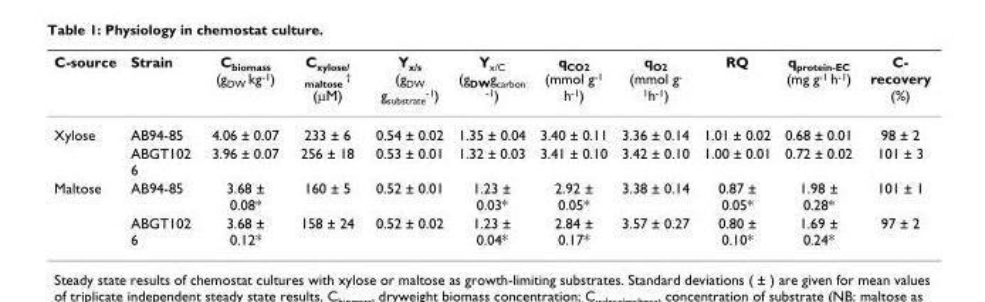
<table><thead><tr><td>C-source</td><td>Strain</td><td>C<sub>biomass</sub> (g<sub>DW</sub> kg<sup>-1</sup>)</td><td>C<sub>xylose/ maltose</sub> <sup>†</sup> (μM)</td><td>Y<sub>x/s</sub> (g<sub>DW</sub> g<sub>substrate</sub><sup>-1</sup>)</td><td>Y<sub>x/C</sub> (g<sub>DW</sub>g<sub>carbon</sub> <sup>-1</sup>)</td><td>q<sub>CO2</sub> (mmol g<sup>-1</sup> h<sup>-1</sup>)</td><td>q<sub>O2</sub> (mmol g<sup>- 1</sup>h<sup>-1</sup>)</td><td>RQ</td><td>q<sub>protein-EC</sub> (mg g<sup>-1</sup> h<sup>-1</sup>)</td><td>C- recovery (%)</td></tr></thead><tbody><tr><td rowspan="2">Xylose</td><td>AB94-85</td><td>4.06 ± 0.07</td><td>233 ± 6</td><td>0.54 ± 0.02</td><td>1.35 ± 0.04</td><td>3.40 ± 0.11</td><td>3.36 ± 0.14</td><td>1.01 ± 0.02</td><td>0.68 ± 0.01</td><td>98 ± 2</td></tr><tr><td>ABGT102 6</td><td>3.96 ± 0.07</td><td>256 ± 18</td><td>0.53 ± 0.01</td><td>1.32 ± 0.03</td><td>3.41 ± 0.10</td><td>3.42 ± 0.10</td><td>1.00 ± 0.01</td><td>0.72 ± 0.02</td><td>101 ± 3</td></tr><tr><td rowspan="2">Maltose</td><td>AB94-85</td><td>3.68 ± 0.08*</td><td>160 ± 5</td><td>0.52 ± 0.01</td><td>1.23 ± 0.03*</td><td>2.92 ± 0.05*</td><td>3.38 ± 0.14</td><td>0.87 ± 0.05*</td><td>1.98 ± 0.28*</td><td>101 ± 1</td></tr><tr><td>ABGT102 6</td><td>3.68 ± 0.12*</td><td>158 ± 24</td><td>0.52 ± 0.02</td><td>1.23 ± 0.04*</td><td>2.84 ± 0.17*</td><td>3.57 ± 0.27</td><td>0.80 ± 0.10*</td><td>1.69 ± 0.24*</td><td>97 ± 2</td></tr></tbody></table>